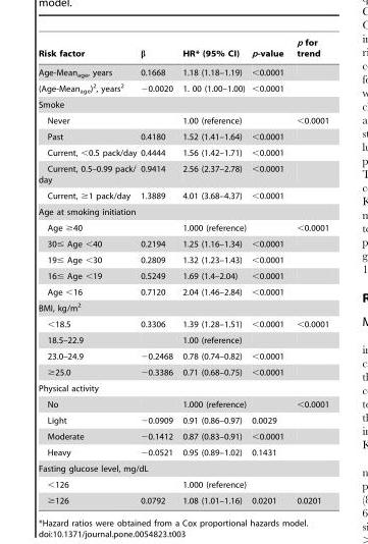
<table><thead><tr><td>Risk factor</td><td>β</td><td>HR* (95% CI)</td><td>p-value</td><td>p for trend</td></tr></thead><tbody><tr><td>Age-Mean<sub>age</sub>, years</td><td>0.1668</td><td>1.18 (1.18–1.19)</td><td>&lt;0.0001</td><td></td></tr><tr><td>(Age-Mean<sub>age</sub>)<sup>2</sup>, years<sup>2</sup></td><td>−0.0020</td><td>1. 00 (1.00–1.00)</td><td>&lt;0.0001</td><td></td></tr><tr><td colspan="5">Smoke</td></tr><tr><td>Never</td><td></td><td>1.00 (reference)</td><td></td><td>&lt;0.0001</td></tr><tr><td>Past</td><td>0.4180</td><td>1.52 (1.41–1.64)</td><td>&lt;0.0001</td><td></td></tr><tr><td>Current, &lt;0.5 pack/day</td><td>0.4444</td><td>1.56 (1.42–1.71)</td><td>&lt;0.0001</td><td></td></tr><tr><td>Current, 0.5–0.99 pack/ day</td><td>0.9414</td><td>2.56 (2.37–2.78)</td><td>&lt;0.0001</td><td></td></tr><tr><td>Current, ≥1 pack/day</td><td>1.3889</td><td>4.01 (3.68–4.37)</td><td>&lt;0.0001</td><td></td></tr><tr><td colspan="5">Age at smoking initiation</td></tr><tr><td>Age ≥40</td><td></td><td>1.000 (reference)</td><td></td><td>&lt;0.0001</td></tr><tr><td>30≤ Age &lt;40</td><td>0.2194</td><td>1.25 (1.16–1.34)</td><td>&lt;0.0001</td><td></td></tr><tr><td>19≤ Age &lt;30</td><td>0.2809</td><td>1.32 (1.23–1.43)</td><td>&lt;0.0001</td><td></td></tr><tr><td>16≤ Age &lt;19</td><td>0.5249</td><td>1.69 (1.4–2.04)</td><td>&lt;0.0001</td><td></td></tr><tr><td>Age &lt;16</td><td>0.7120</td><td>2.04 (1.46–2.84)</td><td>&lt;0.0001</td><td></td></tr><tr><td colspan="5">BMI, kg/m<sup>2</sup></td></tr><tr><td>&lt;18.5</td><td>0.3306</td><td>1.39 (1.28–1.51)</td><td>&lt;0.0001</td><td>&lt;0.0001</td></tr><tr><td>18.5–22.9</td><td></td><td>1.00 (reference)</td><td></td><td></td></tr><tr><td>23.0–24.9</td><td>−0.2468</td><td>0.78 (0.74–0.82)</td><td>&lt;0.0001</td><td></td></tr><tr><td>≥25.0</td><td>−0.3386</td><td>0.71 (0.68–0.75)</td><td>&lt;0.0001</td><td></td></tr><tr><td colspan="5">Physical activity</td></tr><tr><td>No</td><td></td><td>1.000 (reference)</td><td></td><td>&lt;0.0001</td></tr><tr><td>Light</td><td>−0.0909</td><td>0.91 (0.86–0.97)</td><td>0.0029</td><td></td></tr><tr><td>Moderate</td><td>−0.1412</td><td>0.87 (0.83–0.91)</td><td>&lt;0.0001</td><td></td></tr><tr><td>Heavy</td><td>−0.0521</td><td>0.95 (0.89–1.02)</td><td>0.1431</td><td></td></tr><tr><td colspan="5">Fasting glucose level, mg/dL</td></tr><tr><td>&lt;126</td><td></td><td>1.000 (reference)</td><td></td><td></td></tr><tr><td>≥126</td><td>0.0792</td><td>1.08 (1.01–1.16)</td><td>0.0201</td><td>0.0201</td></tr></tbody></table>